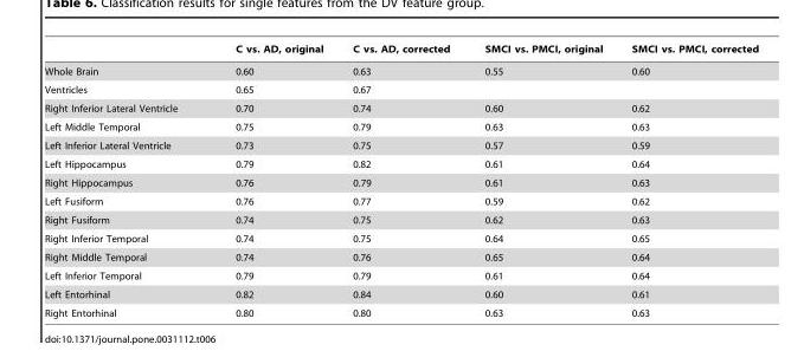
<table><thead><tr><td></td><td>C vs. AD, original</td><td>C vs. AD, corrected</td><td>SMCI vs. PMCI, original</td><td>SMCI vs. PMCI, corrected</td></tr></thead><tbody><tr><td>Whole Brain</td><td>0.60</td><td>0.63</td><td>0.55</td><td>0.60</td></tr><tr><td>Ventricles</td><td>0.65</td><td>0.67</td><td></td><td></td></tr><tr><td>Right Inferior Lateral Ventricle</td><td>0.70</td><td>0.74</td><td>0.60</td><td>0.62</td></tr><tr><td>Left Middle Temporal</td><td>0.75</td><td>0.79</td><td>0.63</td><td>0.63</td></tr><tr><td>Left Inferior Lateral Ventricle</td><td>0.73</td><td>0.75</td><td>0.57</td><td>0.59</td></tr><tr><td>Left Hippocampus</td><td>0.79</td><td>0.82</td><td>0.61</td><td>0.64</td></tr><tr><td>Right Hippocampus</td><td>0.76</td><td>0.79</td><td>0.61</td><td>0.63</td></tr><tr><td>Left Fusiform</td><td>0.76</td><td>0.77</td><td>0.59</td><td>0.62</td></tr><tr><td>Right Fusiform</td><td>0.74</td><td>0.75</td><td>0.62</td><td>0.63</td></tr><tr><td>Right Inferior Temporal</td><td>0.74</td><td>0.75</td><td>0.64</td><td>0.65</td></tr><tr><td>Right Middle Temporal</td><td>0.74</td><td>0.76</td><td>0.65</td><td>0.64</td></tr><tr><td>Left Inferior Temporal</td><td>0.79</td><td>0.79</td><td>0.61</td><td>0.64</td></tr><tr><td>Left Entorhinal</td><td>0.82</td><td>0.84</td><td>0.60</td><td>0.61</td></tr><tr><td>Right Entorhinal</td><td>0.80</td><td>0.80</td><td>0.63</td><td>0.63</td></tr></tbody></table>